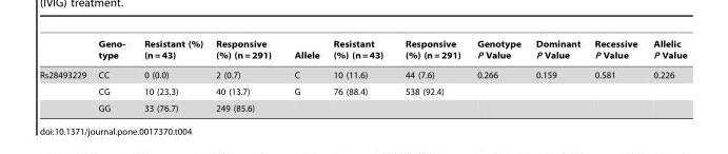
<table><thead><tr><td></td><td>Geno- type</td><td>Resistant (%) (n = 43)</td><td>Responsive (%) (n = 291)</td><td>Allele</td><td>Resistant (%) (n = 43)</td><td>Responsive (%) (n = 291)</td><td>Genotype P Value</td><td>Dominant P Value</td><td>Recessive P Value</td><td>Allelic P Value</td></tr></thead><tbody><tr><td rowspan="3">Rs28493229</td><td>CC</td><td>0 (0.0)</td><td>2 (0.7)</td><td>C</td><td>10 (11.6)</td><td>44 (7.6)</td><td>0.266</td><td>0.159</td><td>0.581</td><td>0.226</td></tr><tr><td>CG</td><td>10 (23.3)</td><td>40 (13.7)</td><td>G</td><td>76 (88.4)</td><td>538 (92.4)</td><td></td><td></td><td></td><td></td></tr><tr><td>GG</td><td>33 (76.7)</td><td>249 (85.6)</td><td></td><td></td><td></td><td></td><td></td><td></td><td></td></tr></tbody></table>